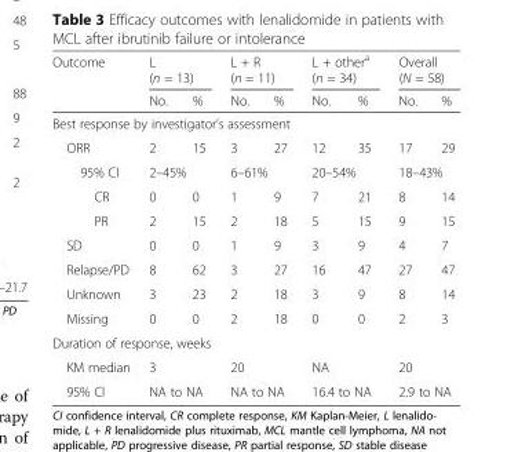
<table><thead><tr><td rowspan="2">Outcome</td><td colspan="2">L (n = 13)</td><td colspan="2">L + R (n = 11)</td><td colspan="2">L + other<sup>a</sup> (n = 34)</td><td colspan="2">Overall (N = 58)</td></tr><tr><td>No.</td><td>%</td><td>No.</td><td>%</td><td>No.</td><td>%</td><td>No.</td><td>%</td></tr></thead><tbody><tr><td colspan="9">Best response by investigator’s assessment</td></tr><tr><td>ORR</td><td>2</td><td>15</td><td>3</td><td>27</td><td>12</td><td>35</td><td>17</td><td>29</td></tr><tr><td>95% CI</td><td colspan="2">2–45%</td><td colspan="2">6–61%</td><td colspan="2">20–54%</td><td colspan="2">18–43%</td></tr><tr><td>CR</td><td>0</td><td>0</td><td>1</td><td>9</td><td>7</td><td>21</td><td>8</td><td>14</td></tr><tr><td>PR</td><td>2</td><td>15</td><td>2</td><td>18</td><td>5</td><td>15</td><td>9</td><td>15</td></tr><tr><td>SD</td><td>0</td><td>0</td><td>1</td><td>9</td><td>3</td><td>9</td><td>4</td><td>7</td></tr><tr><td>Relapse/PD</td><td>8</td><td>62</td><td>3</td><td>27</td><td>16</td><td>47</td><td>27</td><td>47</td></tr><tr><td>Unknown</td><td>3</td><td>23</td><td>2</td><td>18</td><td>3</td><td>9</td><td>8</td><td>14</td></tr><tr><td>Missing</td><td>0</td><td>0</td><td>2</td><td>18</td><td>0</td><td>0</td><td>2</td><td>3</td></tr><tr><td colspan="9">Duration of response, weeks</td></tr><tr><td>KM median</td><td colspan="2">3</td><td colspan="2">20</td><td colspan="2">NA</td><td colspan="2">20</td></tr><tr><td>95% CI</td><td colspan="2">NA to NA</td><td colspan="2">NA to NA</td><td colspan="2">16.4 to NA</td><td colspan="2">2.9 to NA</td></tr></tbody></table>